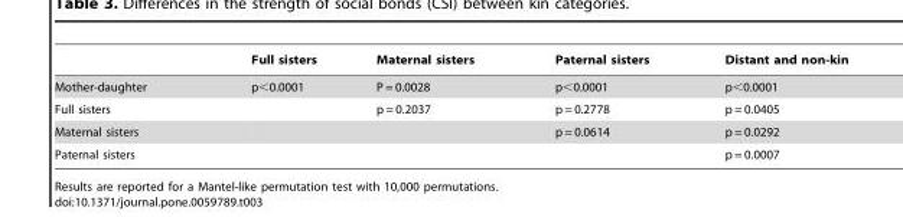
<table><thead><tr><td></td><td>Full sisters</td><td>Maternal sisters</td><td>Paternal sisters</td><td>Distant and non-kin</td></tr></thead><tbody><tr><td>Mother-daughter</td><td>p&lt;0.0001</td><td>P = 0.0028</td><td>p&lt;0.0001</td><td>p&lt;0.0001</td></tr><tr><td>Full sisters</td><td></td><td>p = 0.2037</td><td>p = 0.2778</td><td>p = 0.0405</td></tr><tr><td>Maternal sisters</td><td></td><td></td><td>p = 0.0614</td><td>p = 0.0292</td></tr><tr><td>Paternal sisters</td><td></td><td></td><td></td><td>p = 0.0007</td></tr></tbody></table>